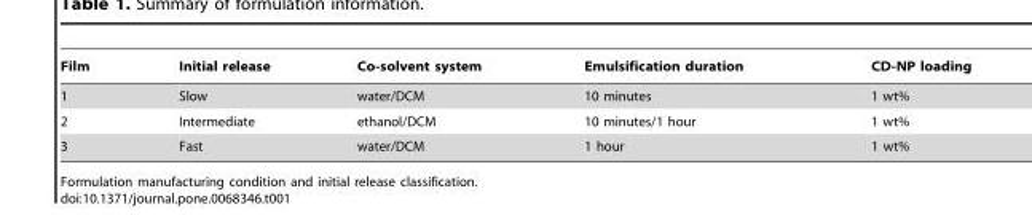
<table><thead><tr><td>Film</td><td>Initial release</td><td>Co-solvent system</td><td>Emulsification duration</td><td>CD-NP loading</td></tr></thead><tbody><tr><td>1</td><td>Slow</td><td>water/DCM</td><td>10 minutes</td><td>1 wt%</td></tr><tr><td>2</td><td>Intermediate</td><td>ethanol/DCM</td><td>10 minutes/1 hour</td><td>1 wt%</td></tr><tr><td>3</td><td>Fast</td><td>water/DCM</td><td>1 hour</td><td>1 wt%</td></tr></tbody></table>